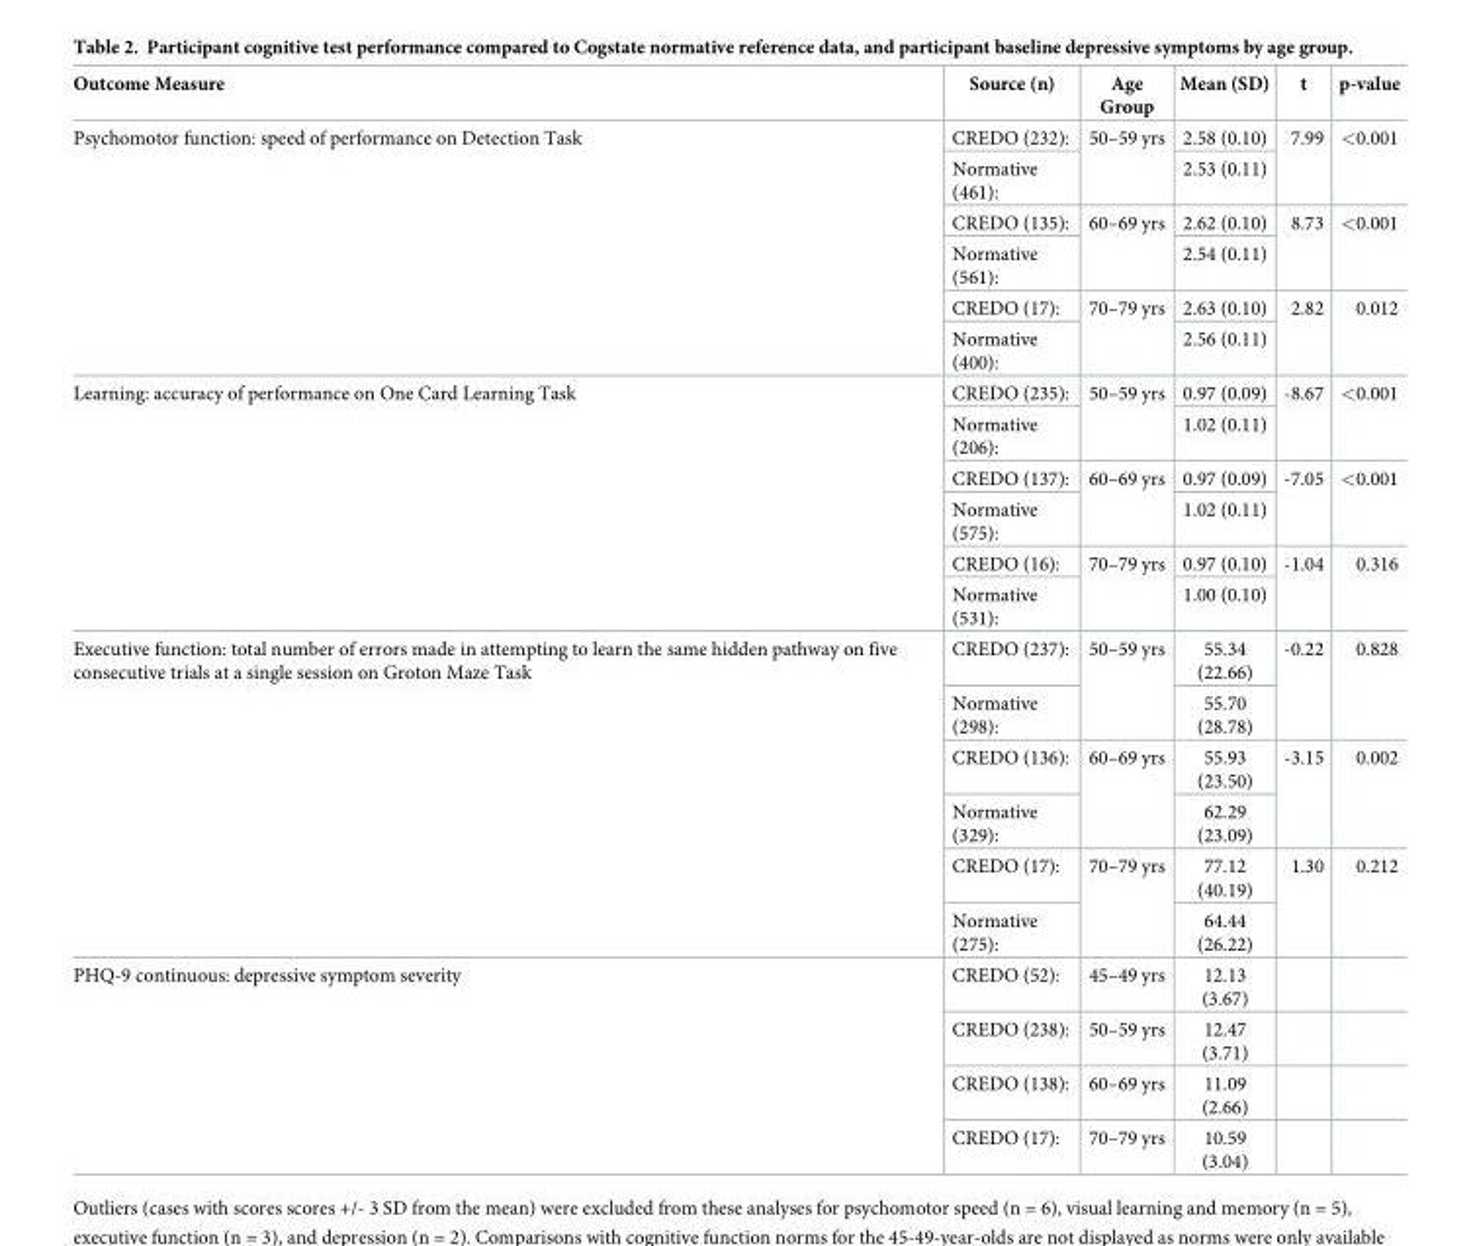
<table><thead><tr><td>Outcome Measure</td><td>Source (n)</td><td>Age Group</td><td>Mean (SD)</td><td>t</td><td>p-value</td></tr></thead><tbody><tr><td rowspan="6">Psychomotor function: speed of performance on Detection Task</td><td>CREDO (232):</td><td rowspan="2">50–59 yrs</td><td>2.58 (0.10)</td><td rowspan="2">7.99</td><td rowspan="2">&lt;0.001</td></tr><tr><td>Normative (461):</td><td>2.53 (0.11)</td></tr><tr><td>CREDO (135):</td><td rowspan="2">60–69 yrs</td><td>2.62 (0.10)</td><td rowspan="2">8.73</td><td rowspan="2">&lt;0.001</td></tr><tr><td>Normative (561):</td><td>2.54 (0.11)</td></tr><tr><td>CREDO (17):</td><td rowspan="2">70–79 yrs</td><td>2.63 (0.10)</td><td rowspan="2">2.82</td><td rowspan="2">0.012</td></tr><tr><td>Normative (400):</td><td>2.56 (0.11)</td></tr><tr><td rowspan="6">Learning: accuracy of performance on One Card Learning Task</td><td>CREDO (235):</td><td rowspan="2">50–59 yrs</td><td>0.97 (0.09)</td><td rowspan="2">-8.67</td><td rowspan="2">&lt;0.001</td></tr><tr><td>Normative (206):</td><td>1.02 (0.11)</td></tr><tr><td>CREDO (137):</td><td rowspan="2">60–69 yrs</td><td>0.97 (0.09)</td><td rowspan="2">-7.05</td><td rowspan="2">&lt;0.001</td></tr><tr><td>Normative (575):</td><td>1.02 (0.11)</td></tr><tr><td>CREDO (16):</td><td rowspan="2">70–79 yrs</td><td>0.97 (0.10)</td><td rowspan="2">-1.04</td><td rowspan="2">0.316</td></tr><tr><td>Normative (531):</td><td>1.00 (0.10)</td></tr><tr><td rowspan="6">Executive function: total number of errors made in attempting to learn the same hidden pathway on five consecutive trials at a single session on Groton Maze Task</td><td>CREDO (237):</td><td rowspan="2">50–59 yrs</td><td>55.34 (22.66)</td><td rowspan="2">-0.22</td><td rowspan="2">0.828</td></tr><tr><td>Normative (298):</td><td>55.70 (28.78)</td></tr><tr><td>CREDO (136):</td><td rowspan="2">60–69 yrs</td><td>55.93 (23.50)</td><td rowspan="2">-3.15</td><td rowspan="2">0.002</td></tr><tr><td>Normative (329):</td><td>62.29 (23.09)</td></tr><tr><td>CREDO (17):</td><td rowspan="2">70–79 yrs</td><td>77.12 (40.19)</td><td rowspan="2">1.30</td><td rowspan="2">0.212</td></tr><tr><td>Normative (275):</td><td>64.44 (26.22)</td></tr><tr><td rowspan="4">PHQ-9 continuous: depressive symptom severity</td><td>CREDO (52):</td><td>45–49 yrs</td><td>12.13 (3.67)</td><td></td><td></td></tr><tr><td>CREDO (238):</td><td>50–59 yrs</td><td>12.47 (3.71)</td><td></td><td></td></tr><tr><td>CREDO (138):</td><td>60–69 yrs</td><td>11.09 (2.66)</td><td></td><td></td></tr><tr><td>CREDO (17):</td><td>70–79 yrs</td><td>10.59 (3.04)</td><td></td><td></td></tr></tbody></table>